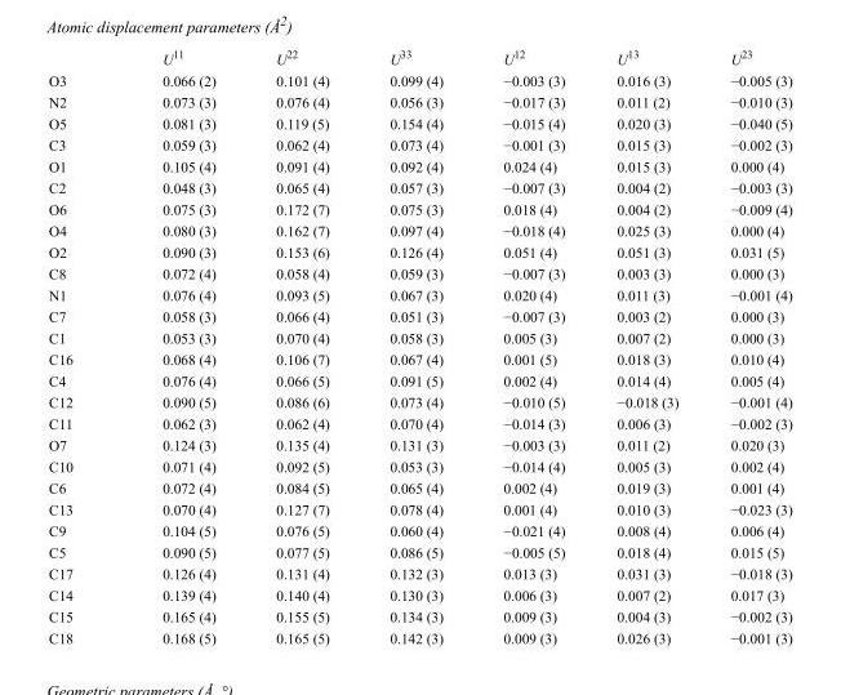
<table><thead><tr><td></td><td>U<sup>11</sup></td><td>U<sup>22</sup></td><td>U<sup>33</sup></td><td>U<sup>12</sup></td><td>U<sup>13</sup></td><td>U<sup>23</sup></td></tr></thead><tbody><tr><td>O3</td><td>0.066 (2)</td><td>0.101 (4)</td><td>0.099 (4)</td><td>−0.003 (3)</td><td>0.016 (3)</td><td>−0.005 (3)</td></tr><tr><td>N2</td><td>0.073 (3)</td><td>0.076 (4)</td><td>0.056 (3)</td><td>−0.017 (3)</td><td>0.011 (2)</td><td>−0.010 (3)</td></tr><tr><td>O5</td><td>0.081 (3)</td><td>0.119 (5)</td><td>0.154 (4)</td><td>−0.015 (4)</td><td>0.020 (3)</td><td>−0.040 (5)</td></tr><tr><td>C3</td><td>0.059 (3)</td><td>0.062 (4)</td><td>0.073 (4)</td><td>−0.001 (3)</td><td>0.015 (3)</td><td>−0.002 (3)</td></tr><tr><td>O1</td><td>0.105 (4)</td><td>0.091 (4)</td><td>0.092 (4)</td><td>0.024 (4)</td><td>0.015 (3)</td><td>0.000 (4)</td></tr><tr><td>C2</td><td>0.048 (3)</td><td>0.065 (4)</td><td>0.057 (3)</td><td>−0.007 (3)</td><td>0.004 (2)</td><td>−0.003 (3)</td></tr><tr><td>O6</td><td>0.075 (3)</td><td>0.172 (7)</td><td>0.075 (3)</td><td>0.018 (4)</td><td>0.004 (2)</td><td>−0.009 (4)</td></tr><tr><td>O4</td><td>0.080 (3)</td><td>0.162 (7)</td><td>0.097 (4)</td><td>−0.018 (4)</td><td>0.025 (3)</td><td>0.000 (4)</td></tr><tr><td>O2</td><td>0.090 (3)</td><td>0.153 (6)</td><td>0.126 (4)</td><td>0.051 (4)</td><td>0.051 (3)</td><td>0.031 (5)</td></tr><tr><td>C8</td><td>0.072 (4)</td><td>0.058 (4)</td><td>0.059 (3)</td><td>−0.007 (3)</td><td>0.003 (3)</td><td>0.000 (3)</td></tr><tr><td>N1</td><td>0.076 (4)</td><td>0.093 (5)</td><td>0.067 (3)</td><td>0.020 (4)</td><td>0.011 (3)</td><td>−0.001 (4)</td></tr><tr><td>C7</td><td>0.058 (3)</td><td>0.066 (4)</td><td>0.051 (3)</td><td>−0.007 (3)</td><td>0.003 (2)</td><td>0.000 (3)</td></tr><tr><td>C1</td><td>0.053 (3)</td><td>0.070 (4)</td><td>0.058 (3)</td><td>0.005 (3)</td><td>0.007 (2)</td><td>0.000 (3)</td></tr><tr><td>C16</td><td>0.068 (4)</td><td>0.106 (7)</td><td>0.067 (4)</td><td>0.001 (5)</td><td>0.018 (3)</td><td>0.010 (4)</td></tr><tr><td>C4</td><td>0.076 (4)</td><td>0.066 (5)</td><td>0.091 (5)</td><td>0.002 (4)</td><td>0.014 (4)</td><td>0.005 (4)</td></tr><tr><td>C12</td><td>0.090 (5)</td><td>0.086 (6)</td><td>0.073 (4)</td><td>−0.010 (5)</td><td>−0.018 (3)</td><td>−0.001 (4)</td></tr><tr><td>C11</td><td>0.062 (3)</td><td>0.062 (4)</td><td>0.070 (4)</td><td>−0.014 (3)</td><td>0.006 (3)</td><td>−0.002 (3)</td></tr><tr><td>O7</td><td>0.124 (3)</td><td>0.135 (4)</td><td>0.131 (3)</td><td>−0.003 (3)</td><td>0.011 (2)</td><td>0.020 (3)</td></tr><tr><td>C10</td><td>0.071 (4)</td><td>0.092 (5)</td><td>0.053 (3)</td><td>−0.014 (4)</td><td>0.005 (3)</td><td>0.002 (4)</td></tr><tr><td>C6</td><td>0.072 (4)</td><td>0.084 (5)</td><td>0.065 (4)</td><td>0.002 (4)</td><td>0.019 (3)</td><td>0.001 (4)</td></tr><tr><td>C13</td><td>0.070 (4)</td><td>0.127 (7)</td><td>0.078 (4)</td><td>0.001 (4)</td><td>0.010 (3)</td><td>−0.023 (3)</td></tr><tr><td>C9</td><td>0.104 (5)</td><td>0.076 (5)</td><td>0.060 (4)</td><td>−0.021 (4)</td><td>0.008 (4)</td><td>0.006 (4)</td></tr><tr><td>C5</td><td>0.090 (5)</td><td>0.077 (5)</td><td>0.086 (5)</td><td>−0.005 (5)</td><td>0.018 (4)</td><td>0.015 (5)</td></tr><tr><td>C17</td><td>0.126 (4)</td><td>0.131 (4)</td><td>0.132 (3)</td><td>0.013 (3)</td><td>0.031 (3)</td><td>−0.018 (3)</td></tr><tr><td>C14</td><td>0.139 (4)</td><td>0.140 (4)</td><td>0.130 (3)</td><td>0.006 (3)</td><td>0.007 (2)</td><td>0.017 (3)</td></tr><tr><td>C15</td><td>0.165 (4)</td><td>0.155 (5)</td><td>0.134 (3)</td><td>0.009 (3)</td><td>0.004 (3)</td><td>−0.002 (3)</td></tr><tr><td>C18</td><td>0.168 (5)</td><td>0.165 (5)</td><td>0.142 (3)</td><td>0.009 (3)</td><td>0.026 (3)</td><td>−0.001 (3)</td></tr></tbody></table>